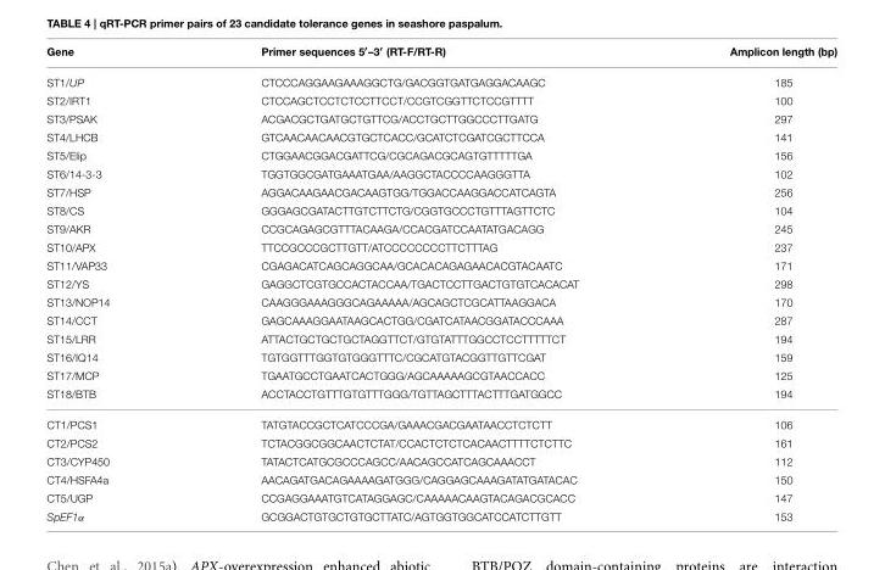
<table><thead><tr><td>Gene</td><td>Primer sequences 5′–3′ (RT-F/RT-R)</td><td>Amplicon length (bp)</td></tr></thead><tbody><tr><td>ST1/UP</td><td>CTCCCAGGAAGAAAGGCTG/GACGGTGATGAGGACAAGC</td><td>185</td></tr><tr><td>ST2/IRT1</td><td>CTCCAGCTCCTCTCCTTCCT/CCGTCGGTTCTCCGTTTT</td><td>100</td></tr><tr><td>ST3/PSAK</td><td>ACGACGCTGATGCTGTTCG/ACCTGCTTGGCCCTTGATG</td><td>297</td></tr><tr><td>ST4/LHCB</td><td>GTCAACAACAACGTGCTCACC/GCATCTCGATCGCTTCCA</td><td>141</td></tr><tr><td>ST5/Elip</td><td>CTGGAACGGACGATTCG/CGCAGACGCAGTGTTTTTGA</td><td>156</td></tr><tr><td>ST6/14-3-3</td><td>TGGTGGCGATGAAATGAA/AAGGCTACCCCAAGGGTTA</td><td>102</td></tr><tr><td>ST7/HSP</td><td>AGGACAAGAACGACAAGTGG/TGGACCAAGGACCATCAGTA</td><td>256</td></tr><tr><td>ST8/CS</td><td>GGGAGCGATACTTGTCTTCTG/CGGTGCCCTGTTTAGTTCTC</td><td>104</td></tr><tr><td>ST9/AKR</td><td>CCGCAGAGCGTTTACAAGA/CCACGATCCAATATGACAGG</td><td>245</td></tr><tr><td>ST10/APX</td><td>TTCCGCCCGCTTGTT/ATCCCCCCCCTTCTTTAG</td><td>237</td></tr><tr><td>ST11/VAP33</td><td>CGAGACATCAGCAGGCAA/GCACACAGAGAACACGTACAATC</td><td>171</td></tr><tr><td>ST12/YS</td><td>GAGGCTCGTGCCACTACCAA/TGACTCCTTGACTGTGTCACACAT</td><td>298</td></tr><tr><td>ST13/NOP14</td><td>CAAGGGAAAGGGCAGAAAAA/AGCAGCTCGCATTAAGGACA</td><td>170</td></tr><tr><td>ST14/CCT</td><td>GAGCAAAGGAATAAGCACTGG/CGATCATAACGGATACCCAAA</td><td>287</td></tr><tr><td>ST15/LRR</td><td>ATTACTGCTGCTGCTAGGTTCT/GTGTATTTGGCCTCCTTTTTCT</td><td>194</td></tr><tr><td>ST16/IQ14</td><td>TGTGGTTTGGTGTGGGTTTC/CGCATGTACGGTTGTTCGAT</td><td>159</td></tr><tr><td>ST17/MCP</td><td>TGAATGCCTGAATCACTGGG/AGCAAAAAGCGTAACCACC</td><td>125</td></tr><tr><td>ST18/BTB</td><td>ACCTACCTGTTTGTGTTTGGG/TGTTAGCTTTACTTTGATGGCC</td><td>194</td></tr><tr><td>CT1/PCS1</td><td>TATGTACCGCTCATCCCGA/GAAACGACGAATAACCTCTCTT</td><td>106</td></tr><tr><td>CT2/PCS2</td><td>TCTACGGCGGCAACTCTAT/CCACTCTCTCACAACTTTTCTCTTC</td><td>161</td></tr><tr><td>CT3/CYP450</td><td>TATACTCATGCGCCCAGCC/AACAGCCATCAGCAAACCT</td><td>112</td></tr><tr><td>CT4/HSFA4a</td><td>AACAGATGACAGAAAAGATGGG/CAGGAGCAAAGATATGATACAC</td><td>150</td></tr><tr><td>CT5/UGP</td><td>CCGAGGAAATGTCATAGGAGC/CAAAAACAAGTACAGACGCACC</td><td>147</td></tr><tr><td>SpEF1α</td><td>GCGGACTGTGCTGTGCTTATC/AGTGGTGGCATCCATCTTGTT</td><td>153</td></tr></tbody></table>